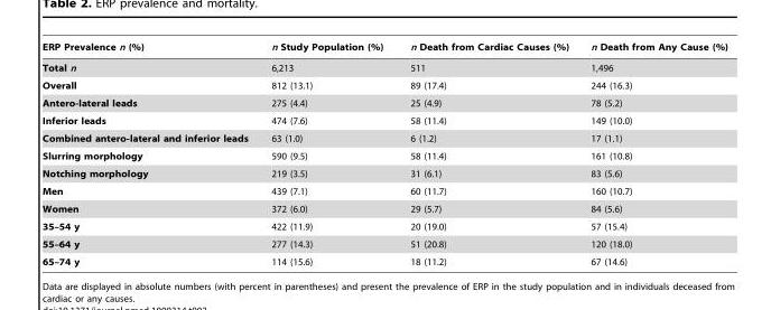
<table><thead><tr><td>ERP Prevalence n (%)</td><td>n Study Population (%)</td><td>n Death from Cardiac Causes (%)</td><td>n Death from Any Cause (%)</td></tr></thead><tbody><tr><td>Total n</td><td>6,213</td><td>511</td><td>1,496</td></tr><tr><td>Overall</td><td>812 (13.1)</td><td>89 (17.4)</td><td>244 (16.3)</td></tr><tr><td>Antero-lateral leads</td><td>275 (4.4)</td><td>25 (4.9)</td><td>78 (5.2)</td></tr><tr><td>Inferior leads</td><td>474 (7.6)</td><td>58 (11.4)</td><td>149 (10.0)</td></tr><tr><td>Combined antero-lateral and inferior leads</td><td>63 (1.0)</td><td>6 (1.2)</td><td>17 (1.1)</td></tr><tr><td>Slurring morphology</td><td>590 (9.5)</td><td>58 (11.4)</td><td>161 (10.8)</td></tr><tr><td>Notching morphology</td><td>219 (3.5)</td><td>31 (6.1)</td><td>83 (5.6)</td></tr><tr><td>Men</td><td>439 (7.1)</td><td>60 (11.7)</td><td>160 (10.7)</td></tr><tr><td>Women</td><td>372 (6.0)</td><td>29 (5.7)</td><td>84 (5.6)</td></tr><tr><td>35–54 y</td><td>422 (11.9)</td><td>20 (19.0)</td><td>57 (15.4)</td></tr><tr><td>55–64 y</td><td>277 (14.3)</td><td>51 (20.8)</td><td>120 (18.0)</td></tr><tr><td>65–74 y</td><td>114 (15.6)</td><td>18 (11.2)</td><td>67 (14.6)</td></tr></tbody></table>